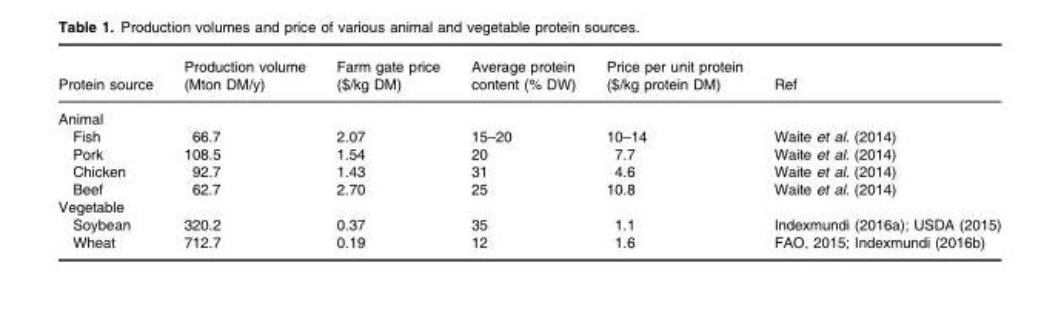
<table><thead><tr><td>Protein source</td><td>Production volume (Mton DM/y)</td><td>Farm gate price ($/kg DM)</td><td>Average protein content (% DW)</td><td>Price per unit protein ($/kg protein DM)</td><td>Ref</td></tr></thead><tbody><tr><td colspan="6">Animal</td></tr><tr><td>Fish</td><td>66.7</td><td>2.07</td><td>15–20</td><td>10–14</td><td>Waite et al. (2014)</td></tr><tr><td>Pork</td><td>108.5</td><td>1.54</td><td>20</td><td>7.7</td><td>Waite et al. (2014)</td></tr><tr><td>Chicken</td><td>92.7</td><td>1.43</td><td>31</td><td>4.6</td><td>Waite et al. (2014)</td></tr><tr><td>Beef</td><td>62.7</td><td>2.70</td><td>25</td><td>10.8</td><td>Waite et al. (2014)</td></tr><tr><td colspan="6">Vegetable</td></tr><tr><td>Soybean</td><td>320.2</td><td>0.37</td><td>35</td><td>1.1</td><td>Indexmundi (2016a); USDA (2015)</td></tr><tr><td>Wheat</td><td>712.7</td><td>0.19</td><td>12</td><td>1.6</td><td>FAO, 2015; Indexmundi (2016b)</td></tr></tbody></table>